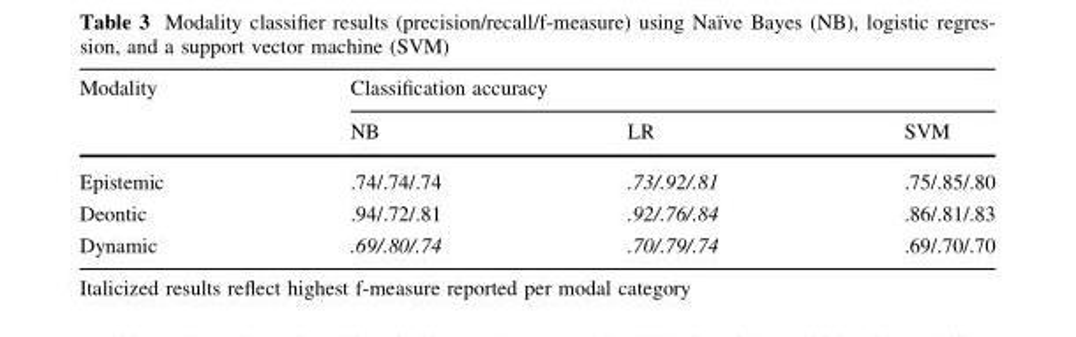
<table><thead><tr><td rowspan="2">Modality</td><td colspan="3">Classification accuracy</td></tr><tr><td>NB</td><td>LR</td><td>SVM</td></tr></thead><tbody><tr><td>Epistemic</td><td>.74/.74/.74</td><td>.73/.92/.81</td><td>.75/.85/.80</td></tr><tr><td>Deontic</td><td>.94/.72/.81</td><td>.92/.76/.84</td><td>.86/.81/.83</td></tr><tr><td>Dynamic</td><td>.69/.80/.74</td><td>.70/.79/.74</td><td>.69/.70/.70</td></tr></tbody></table>